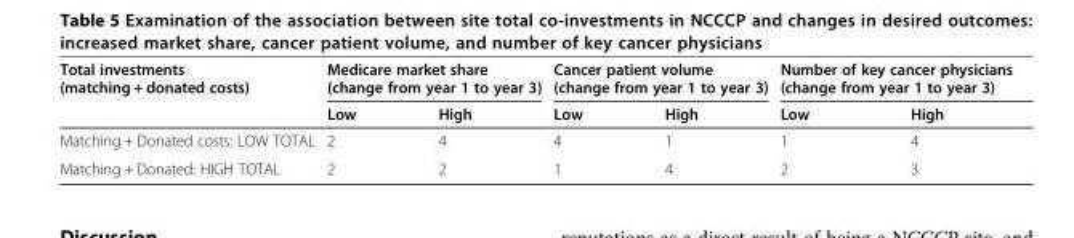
<table><thead><tr><td rowspan="2">Total investments (matching + donated costs)</td><td colspan="2">Medicare market share (change from year 1 to year 3)</td><td colspan="2">Cancer patient volume (change from year 1 to year 3)</td><td colspan="2">Number of key cancer physicians (change from year 1 to year 3)</td></tr><tr><td>Low</td><td>High</td><td>Low</td><td>High</td><td>Low</td><td>High</td></tr></thead><tbody><tr><td>Matching + Donated costs: LOW TOTAL</td><td>2</td><td>4</td><td>4</td><td>1</td><td>1</td><td>4</td></tr><tr><td>Matching + Donated: HIGH TOTAL</td><td>2</td><td>2</td><td>1</td><td>4</td><td>2</td><td>3</td></tr></tbody></table>